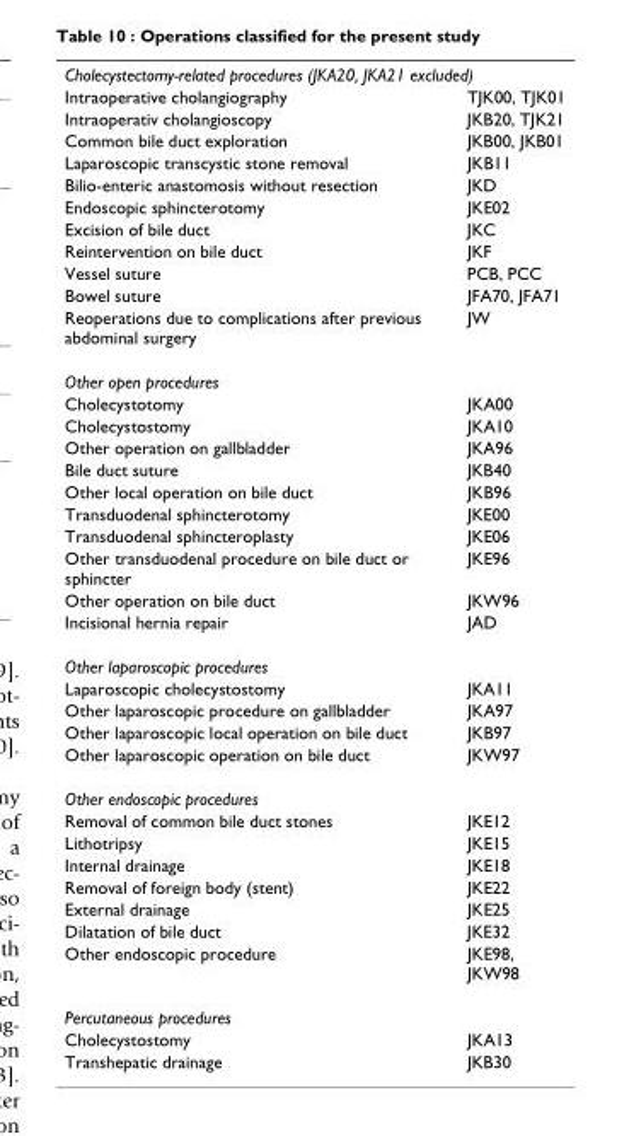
<table><tbody><tr><td colspan="2">Cholecystectomy-related procedures (JKA20, JKA21 excluded)</td></tr><tr><td>Intraoperative cholangiography</td><td>TJK00, TJK01</td></tr><tr><td>Intraoperativ cholangioscopy</td><td>JKB20, TJK21</td></tr><tr><td>Common bile duct exploration</td><td>JKB00, JKB01</td></tr><tr><td>Laparoscopic transcystic stone removal</td><td>JKB11</td></tr><tr><td>Bilio-enteric anastomosis without resection</td><td>JKD</td></tr><tr><td>Endoscopic sphincterotomy</td><td>JKE02</td></tr><tr><td>Excision of bile duct</td><td>JKC</td></tr><tr><td>Reintervention on bile duct</td><td>JKF</td></tr><tr><td>Vessel suture</td><td>PCB, PCC</td></tr><tr><td>Bowel suture</td><td>JFA70, JFA71</td></tr><tr><td>Reoperations due to complications after previous abdominal surgery</td><td>JW</td></tr><tr><td colspan="2">Other open procedures</td></tr><tr><td>Cholecystotomy</td><td>JKA00</td></tr><tr><td>Cholecystostomy</td><td>JKA10</td></tr><tr><td>Other operation on gallbladder</td><td>JKA96</td></tr><tr><td>Bile duct suture</td><td>JKB40</td></tr><tr><td>Other local operation on bile duct</td><td>JKB96</td></tr><tr><td>Transduodenal sphincterotomy</td><td>JKE00</td></tr><tr><td>Transduodenal sphincteroplasty</td><td>JKE06</td></tr><tr><td>Other transduodenal procedure on bile duct or sphincter</td><td>JKE96</td></tr><tr><td>Other operation on bile duct</td><td>JKW96</td></tr><tr><td>Incisional hernia repair</td><td>JAD</td></tr><tr><td colspan="2">Other laparoscopic procedures</td></tr><tr><td>Laparoscopic cholecystostomy</td><td>JKA11</td></tr><tr><td>Other laparoscopic procedure on gallbladder</td><td>JKA97</td></tr><tr><td>Other laparoscopic local operation on bile duct</td><td>JKB97</td></tr><tr><td>Other laparoscopic operation on bile duct</td><td>JKW97</td></tr><tr><td colspan="2">Other endoscopic procedures</td></tr><tr><td>Removal of common bile duct stones</td><td>JKE12</td></tr><tr><td>Lithotripsy</td><td>JKE15</td></tr><tr><td>Internal drainage</td><td>JKE18</td></tr><tr><td>Removal of foreign body (stent)</td><td>JKE22</td></tr><tr><td>External drainage</td><td>JKE25</td></tr><tr><td>Dilatation of bile duct</td><td>JKE32</td></tr><tr><td>Other endoscopic procedure</td><td>JKE98, JKW98</td></tr><tr><td colspan="2">Percutaneous procedures</td></tr><tr><td>Cholecystostomy</td><td>JKA13</td></tr><tr><td>Transhepatic drainage</td><td>JKB30</td></tr></tbody></table>